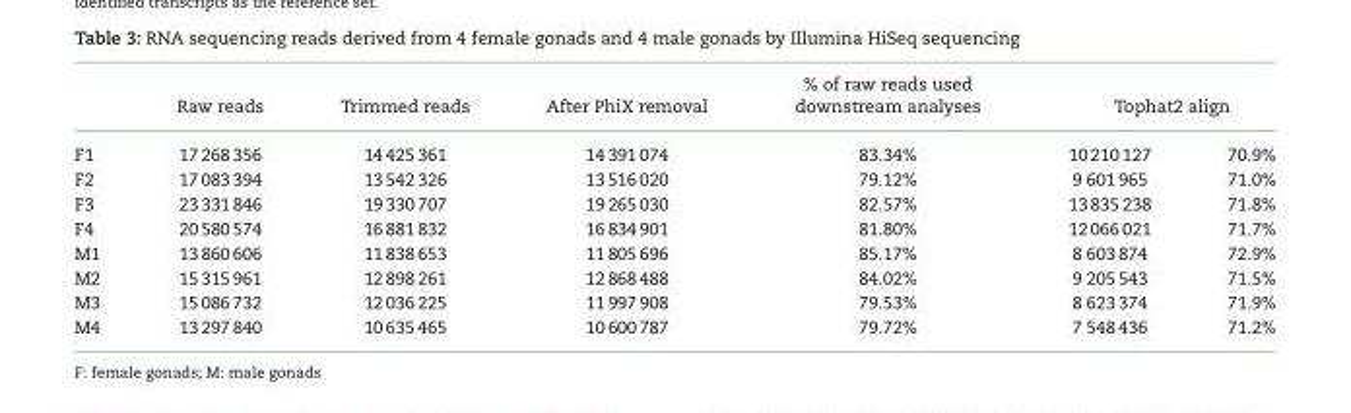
<table><thead><tr><td rowspan="2">F1</td><td rowspan="2">Raw reads 17 268 356</td><td rowspan="2">Trimmed reads 14 425 361</td><td rowspan="2">After PhiX removal 14 391 074</td><td rowspan="2">% of raw reads used downstream analyses 83.34%</td><td colspan="2">Tophat2 align</td></tr><tr><td>10 210 127</td><td>70.9%</td></tr></thead><tbody><tr><td>F2</td><td>17 083 394</td><td>13 542 326</td><td>13 516 020</td><td>79.12%</td><td>9 601 965</td><td>71.0%</td></tr><tr><td>F3</td><td>23 331 846</td><td>19 330 707</td><td>19 265 030</td><td>82.57%</td><td>13 835 238</td><td>71.8%</td></tr><tr><td>F4</td><td>20 580 574</td><td>16 881 832</td><td>16 834 901</td><td>81.80%</td><td>12 066 021</td><td>71.7%</td></tr><tr><td>M1</td><td>13 860 606</td><td>11 838 653</td><td>11 805 696</td><td>85.17%</td><td>8 603 874</td><td>72.9%</td></tr><tr><td>M2</td><td>15 315 961</td><td>12 898 261</td><td>12 868 488</td><td>84.02%</td><td>9 205 543</td><td>71.5%</td></tr><tr><td>M3</td><td>15 086 732</td><td>12 036 225</td><td>11 997 908</td><td>79.53%</td><td>8 623 374</td><td>71.9%</td></tr><tr><td>M4</td><td>13 297 840</td><td>10 635 465</td><td>10 600 787</td><td>79.72%</td><td>7 548 436</td><td>71.2%</td></tr></tbody></table>